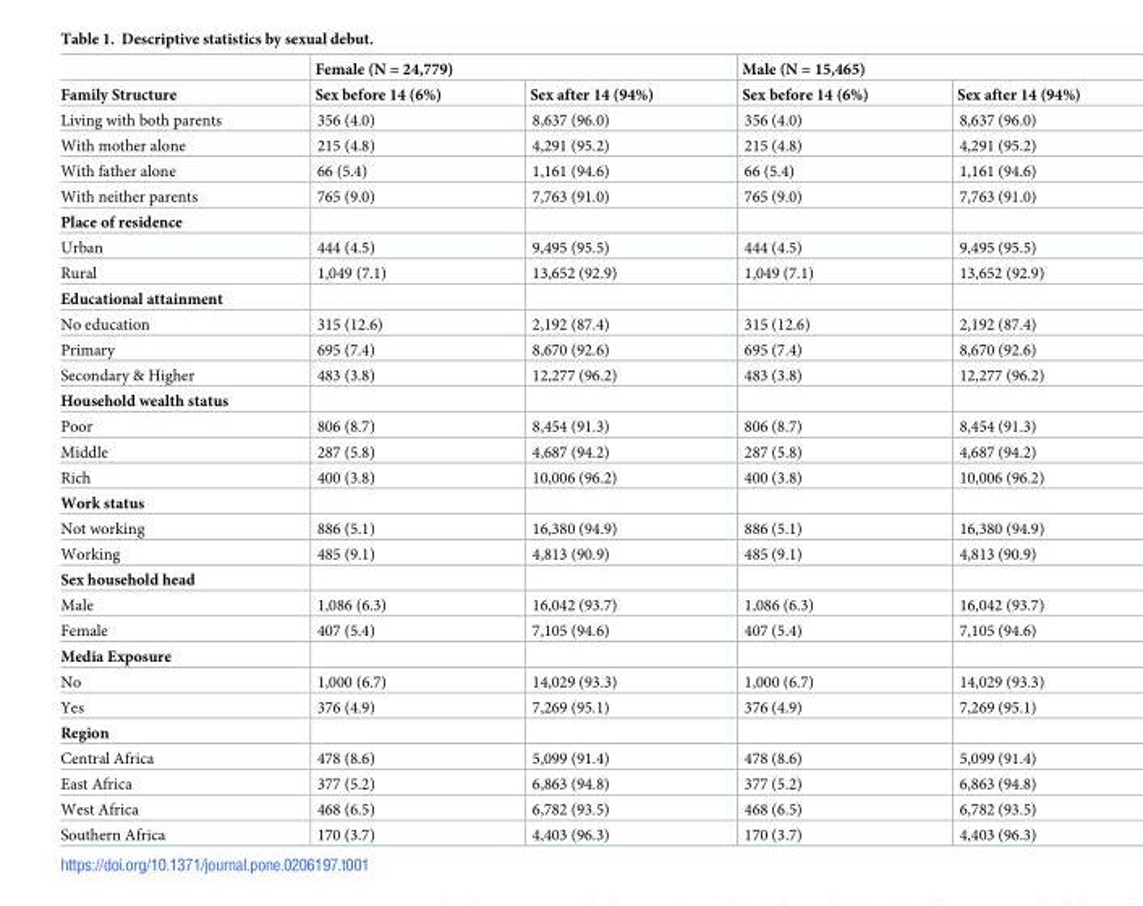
<table><thead><tr><td rowspan="2">Family Structure</td><td colspan="2">Female (N = 24,779)</td><td colspan="2">Male (N = 15,465)</td></tr><tr><td>Sex before 14 (6%)</td><td>Sex after 14 (94%)</td><td>Sex before 14 (6%)</td><td>Sex after 14 (94%)</td></tr></thead><tbody><tr><td>Living with both parents</td><td>356 (4.0)</td><td>8,637 (96.0)</td><td>356 (4.0)</td><td>8,637 (96.0)</td></tr><tr><td>With mother alone</td><td>215 (4.8)</td><td>4,291 (95.2)</td><td>215 (4.8)</td><td>4,291 (95.2)</td></tr><tr><td>With father alone</td><td>66 (5.4)</td><td>1,161 (94.6)</td><td>66 (5.4)</td><td>1,161 (94.6)</td></tr><tr><td>With neither parents</td><td>765 (9.0)</td><td>7,763 (91.0)</td><td>765 (9.0)</td><td>7,763 (91.0)</td></tr><tr><td colspan="5">Place of residence</td></tr><tr><td>Urban</td><td>444 (4.5)</td><td>9,495 (95.5)</td><td>444 (4.5)</td><td>9,495 (95.5)</td></tr><tr><td>Rural</td><td>1,049 (7.1)</td><td>13,652 (92.9)</td><td>1,049 (7.1)</td><td>13,652 (92.9)</td></tr><tr><td colspan="5">Educational attainment</td></tr><tr><td>No education</td><td>315 (12.6)</td><td>2,192 (87.4)</td><td>315 (12.6)</td><td>2,192 (87.4)</td></tr><tr><td>Primary</td><td>695 (7.4)</td><td>8,670 (92.6)</td><td>695 (7.4)</td><td>8,670 (92.6)</td></tr><tr><td>Secondary &amp; Higher</td><td>483 (3.8)</td><td>12,277 (96.2)</td><td>483 (3.8)</td><td>12,277 (96.2)</td></tr><tr><td colspan="5">Household wealth status</td></tr><tr><td>Poor</td><td>806 (8.7)</td><td>8,454 (91.3)</td><td>806 (8.7)</td><td>8,454 (91.3)</td></tr><tr><td>Middle</td><td>287 (5.8)</td><td>4,687 (94.2)</td><td>287 (5.8)</td><td>4,687 (94.2)</td></tr><tr><td>Rich</td><td>400 (3.8)</td><td>10,006 (96.2)</td><td>400 (3.8)</td><td>10,006 (96.2)</td></tr><tr><td colspan="5">Work status</td></tr><tr><td>Not working</td><td>886 (5.1)</td><td>16,380 (94.9)</td><td>886 (5.1)</td><td>16,380 (94.9)</td></tr><tr><td>Working</td><td>485 (9.1)</td><td>4,813 (90.9)</td><td>485 (9.1)</td><td>4,813 (90.9)</td></tr><tr><td colspan="5">Sex household head</td></tr><tr><td>Male</td><td>1,086 (6.3)</td><td>16,042 (93.7)</td><td>1,086 (6.3)</td><td>16,042 (93.7)</td></tr><tr><td>Female</td><td>407 (5.4)</td><td>7,105 (94.6)</td><td>407 (5.4)</td><td>7,105 (94.6)</td></tr><tr><td colspan="5">Media Exposure</td></tr><tr><td>No</td><td>1,000 (6.7)</td><td>14,029 (93.3)</td><td>1,000 (6.7)</td><td>14,029 (93.3)</td></tr><tr><td>Yes</td><td>376 (4.9)</td><td>7,269 (95.1)</td><td>376 (4.9)</td><td>7,269 (95.1)</td></tr><tr><td colspan="5">Region</td></tr><tr><td>Central Africa</td><td>478 (8.6)</td><td>5,099 (91.4)</td><td>478 (8.6)</td><td>5,099 (91.4)</td></tr><tr><td>East Africa</td><td>377 (5.2)</td><td>6,863 (94.8)</td><td>377 (5.2)</td><td>6,863 (94.8)</td></tr><tr><td>West Africa</td><td>468 (6.5)</td><td>6,782 (93.5)</td><td>468 (6.5)</td><td>6,782 (93.5)</td></tr><tr><td>Southern Africa</td><td>170 (3.7)</td><td>4,403 (96.3)</td><td>170 (3.7)</td><td>4,403 (96.3)</td></tr></tbody></table>